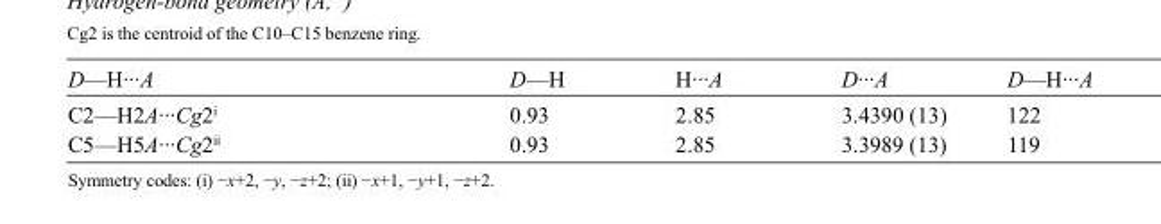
<table><tbody><tr><td>D—H···A</td><td>D—H</td><td>H···A</td><td>D···A</td><td>D—H···A</td></tr><tr><td>C2—H2A···Cg2<sup>i</sup></td><td>0.93</td><td>2.85</td><td>3.4390 (13)</td><td>122</td></tr><tr><td>C5—H5A···Cg2<sup>ii</sup></td><td>0.93</td><td>2.85</td><td>3.3989 (13)</td><td>119</td></tr></tbody></table>